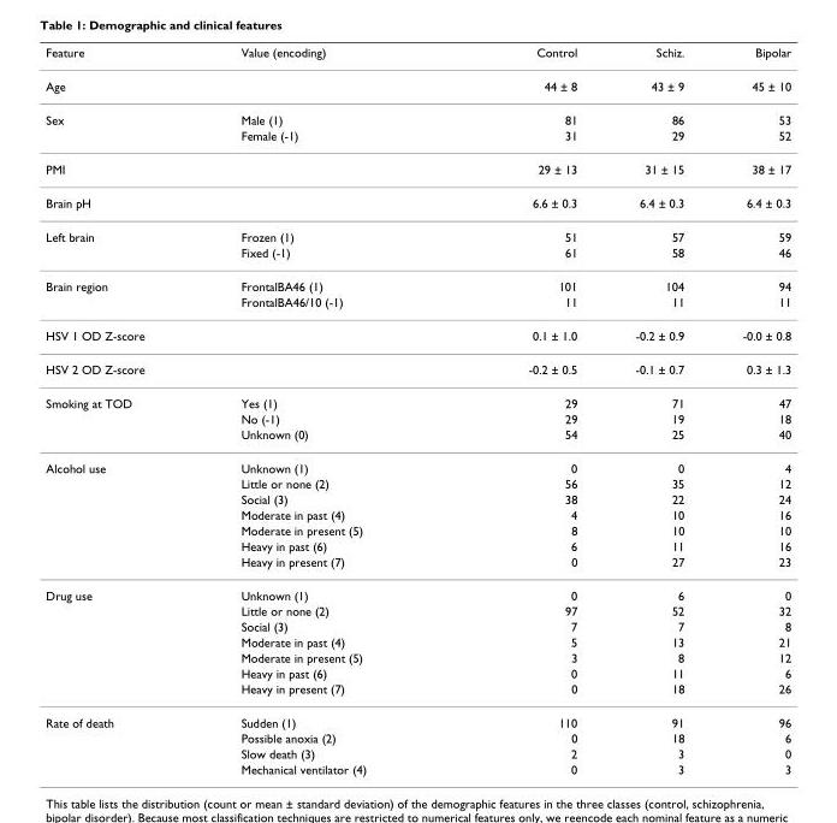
<table><thead><tr><td>Feature</td><td>Value (encoding)</td><td>Control</td><td>Schiz.</td><td>Bipolar</td></tr></thead><tbody><tr><td>Age</td><td></td><td>44 ± 8</td><td>43 ± 9</td><td>45 ± 10</td></tr><tr><td rowspan="2">Sex</td><td>Male (1)</td><td>81</td><td>86</td><td>53</td></tr><tr><td>Female (-1)</td><td>31</td><td>29</td><td>52</td></tr><tr><td>PMI</td><td></td><td>29 ± 13</td><td>31 ± 15</td><td>38 ± 17</td></tr><tr><td>Brain pH</td><td></td><td>6.6 ± 0.3</td><td>6.4 ± 0.3</td><td>6.4 ± 0.3</td></tr><tr><td rowspan="2">Left brain</td><td>Frozen (1)</td><td>51</td><td>57</td><td>59</td></tr><tr><td>Fixed (-1)</td><td>61</td><td>58</td><td>46</td></tr><tr><td rowspan="2">Brain region</td><td>FrontalBA46 (1)</td><td>101</td><td>104</td><td>94</td></tr><tr><td>FrontalBA46/10 (-1)</td><td>11</td><td>11</td><td>11</td></tr><tr><td>HSV 1 OD Z-score</td><td></td><td>0.1 ± 1.0</td><td>-0.2 ± 0.9</td><td>-0.0 ± 0.8</td></tr><tr><td>HSV 2 OD Z-score</td><td></td><td>-0.2 ± 0.5</td><td>-0.1 ± 0.7</td><td>0.3 ± 1.3</td></tr><tr><td rowspan="3">Smoking at TOD</td><td>Yes (1)</td><td>29</td><td>71</td><td>47</td></tr><tr><td>No (-1)</td><td>29</td><td>19</td><td>18</td></tr><tr><td>Unknown (0)</td><td>54</td><td>25</td><td>40</td></tr><tr><td rowspan="7">Alcohol use</td><td>Unknown (1)</td><td>0</td><td>0</td><td>4</td></tr><tr><td>Little or none (2)</td><td>56</td><td>35</td><td>12</td></tr><tr><td>Social (3)</td><td>38</td><td>22</td><td>24</td></tr><tr><td>Moderate in past (4)</td><td>4</td><td>10</td><td>16</td></tr><tr><td>Moderate in present (5)</td><td>8</td><td>10</td><td>10</td></tr><tr><td>Heavy in past (6)</td><td>6</td><td>11</td><td>16</td></tr><tr><td>Heavy in present (7)</td><td>0</td><td>27</td><td>23</td></tr><tr><td rowspan="7">Drug use</td><td>Unknown (1)</td><td>0</td><td>6</td><td>0</td></tr><tr><td>Little or none (2)</td><td>97</td><td>52</td><td>32</td></tr><tr><td>Social (3)</td><td>7</td><td>7</td><td>8</td></tr><tr><td>Moderate in past (4)</td><td>5</td><td>13</td><td>21</td></tr><tr><td>Moderate in present (5)</td><td>3</td><td>8</td><td>12</td></tr><tr><td>Heavy in past (6)</td><td>0</td><td>11</td><td>6</td></tr><tr><td>Heavy in present (7)</td><td>0</td><td>18</td><td>26</td></tr><tr><td rowspan="4">Rate of death</td><td>Sudden (1)</td><td>110</td><td>91</td><td>96</td></tr><tr><td>Possible anoxia (2)</td><td>0</td><td>18</td><td>6</td></tr><tr><td>Slow death (3)</td><td>2</td><td>3</td><td>0</td></tr><tr><td>Mechanical ventilator (4)</td><td>0</td><td>3</td><td>3</td></tr></tbody></table>